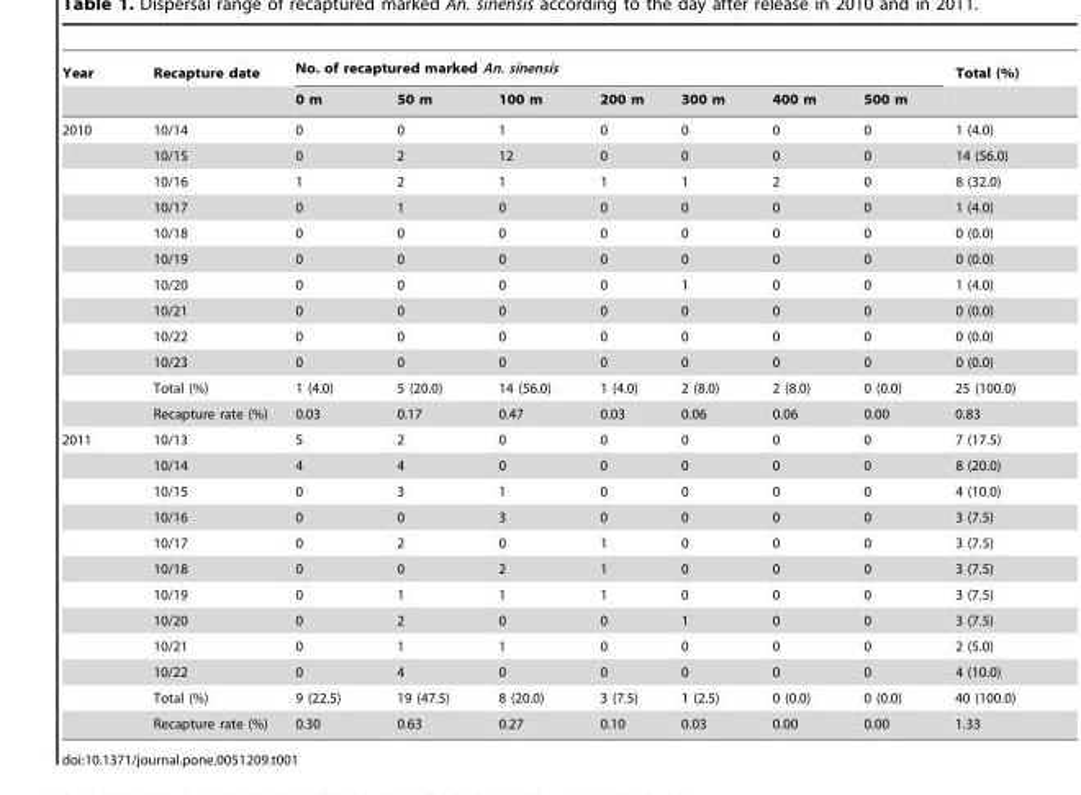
<table><thead><tr><td rowspan="2">Year</td><td rowspan="2">Recapture date</td><td colspan="7">No. of recaptured marked An. sinensis</td><td rowspan="2">Total (%)</td></tr><tr><td>0 m</td><td>50 m</td><td>100 m</td><td>200 m</td><td>300 m</td><td>400 m</td><td>500 m</td></tr></thead><tbody><tr><td rowspan="12">2010</td><td>10/14</td><td>0</td><td>0</td><td>1</td><td>0</td><td>0</td><td>0</td><td>0</td><td>1 (4.0)</td></tr><tr><td>10/15</td><td>0</td><td>2</td><td>12</td><td>0</td><td>0</td><td>0</td><td>0</td><td>14 (56.0)</td></tr><tr><td>10/16</td><td>1</td><td>2</td><td>1</td><td>1</td><td>1</td><td>2</td><td>0</td><td>8 (32.0)</td></tr><tr><td>10/17</td><td>0</td><td>1</td><td>0</td><td>0</td><td>0</td><td>0</td><td>0</td><td>1 (4.0)</td></tr><tr><td>10/18</td><td>0</td><td>0</td><td>0</td><td>0</td><td>0</td><td>0</td><td>0</td><td>0 (0.0)</td></tr><tr><td>10/19</td><td>0</td><td>0</td><td>0</td><td>0</td><td>0</td><td>0</td><td>0</td><td>0 (0.0)</td></tr><tr><td>10/20</td><td>0</td><td>0</td><td>0</td><td>0</td><td>1</td><td>0</td><td>0</td><td>1 (4.0)</td></tr><tr><td>10/21</td><td>0</td><td>0</td><td>0</td><td>0</td><td>0</td><td>0</td><td>0</td><td>0 (0.0)</td></tr><tr><td>10/22</td><td>0</td><td>0</td><td>0</td><td>0</td><td>0</td><td>0</td><td>0</td><td>0 (0.0)</td></tr><tr><td>10/23</td><td>0</td><td>0</td><td>0</td><td>0</td><td>0</td><td>0</td><td>0</td><td>0 (0.0)</td></tr><tr><td>Total (%)</td><td>1 (4.0)</td><td>5 (20.0)</td><td>14 (56.0)</td><td>1 (4.0)</td><td>2 (8.0)</td><td>2 (8.0)</td><td>0 (0.0)</td><td>25 (100.0)</td></tr><tr><td>Recapture rate (%)</td><td>0.03</td><td>0.17</td><td>0.47</td><td>0.03</td><td>0.06</td><td>0.06</td><td>0.00</td><td>0.83</td></tr><tr><td rowspan="12">2011</td><td>10/13</td><td>5</td><td>2</td><td>0</td><td>0</td><td>0</td><td>0</td><td>0</td><td>7 (17.5)</td></tr><tr><td>10/14</td><td>4</td><td>4</td><td>0</td><td>0</td><td>0</td><td>0</td><td>0</td><td>8 (20.0)</td></tr><tr><td>10/15</td><td>0</td><td>3</td><td>1</td><td>0</td><td>0</td><td>0</td><td>0</td><td>4 (10.0)</td></tr><tr><td>10/16</td><td>0</td><td>0</td><td>3</td><td>0</td><td>0</td><td>0</td><td>0</td><td>3 (7.5)</td></tr><tr><td>10/17</td><td>0</td><td>2</td><td>0</td><td>1</td><td>0</td><td>0</td><td>0</td><td>3 (7.5)</td></tr><tr><td>10/18</td><td>0</td><td>0</td><td>2</td><td>1</td><td>0</td><td>0</td><td>0</td><td>3 (7.5)</td></tr><tr><td>10/19</td><td>0</td><td>1</td><td>1</td><td>1</td><td>0</td><td>0</td><td>0</td><td>3 (7.5)</td></tr><tr><td>10/20</td><td>0</td><td>2</td><td>0</td><td>0</td><td>1</td><td>0</td><td>0</td><td>3 (7.5)</td></tr><tr><td>10/21</td><td>0</td><td>1</td><td>1</td><td>0</td><td>0</td><td>0</td><td>0</td><td>2 (5.0)</td></tr><tr><td>10/22</td><td>0</td><td>4</td><td>0</td><td>0</td><td>0</td><td>0</td><td>0</td><td>4 (10.0)</td></tr><tr><td>Total (%)</td><td>9 (22.5)</td><td>19 (47.5)</td><td>8 (20.0)</td><td>3 (7.5)</td><td>1 (2.5)</td><td>0 (0.0)</td><td>0 (0.0)</td><td>40 (100.0)</td></tr><tr><td>Recapture rate (%)</td><td>0.30</td><td>0.63</td><td>0.27</td><td>0.10</td><td>0.03</td><td>0.00</td><td>0.00</td><td>1.33</td></tr></tbody></table>